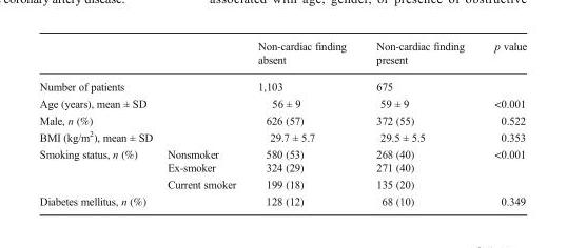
<table><thead><tr><td></td><td></td><td>Non-cardiac finding absent</td><td>Non-cardiac finding present</td><td>p value</td></tr></thead><tbody><tr><td colspan="2">Number of patients</td><td>1,103</td><td>675</td><td></td></tr><tr><td colspan="2">Age (years), mean ± SD</td><td>56 ± 9</td><td>59 ± 9</td><td>&lt;0.001</td></tr><tr><td colspan="2">Male, n (%)</td><td>626 (57)</td><td>372 (55)</td><td>0.522</td></tr><tr><td colspan="2">BMI (kg/m<sup>2</sup>), mean ± SD</td><td>29.7 ± 5.7</td><td>29.5 ± 5.5</td><td>0.353</td></tr><tr><td rowspan="3">Smoking status, n (%)</td><td>Nonsmoker</td><td>580 (53)</td><td>268 (40)</td><td rowspan="3">&lt;0.001</td></tr><tr><td>Ex-smoker</td><td>324 (29)</td><td>271 (40)</td></tr><tr><td>Current smoker</td><td>199 (18)</td><td>135 (20)</td></tr><tr><td colspan="2">Diabetes mellitus, n (%)</td><td>128 (12)</td><td>68 (10)</td><td>0.349</td></tr></tbody></table>